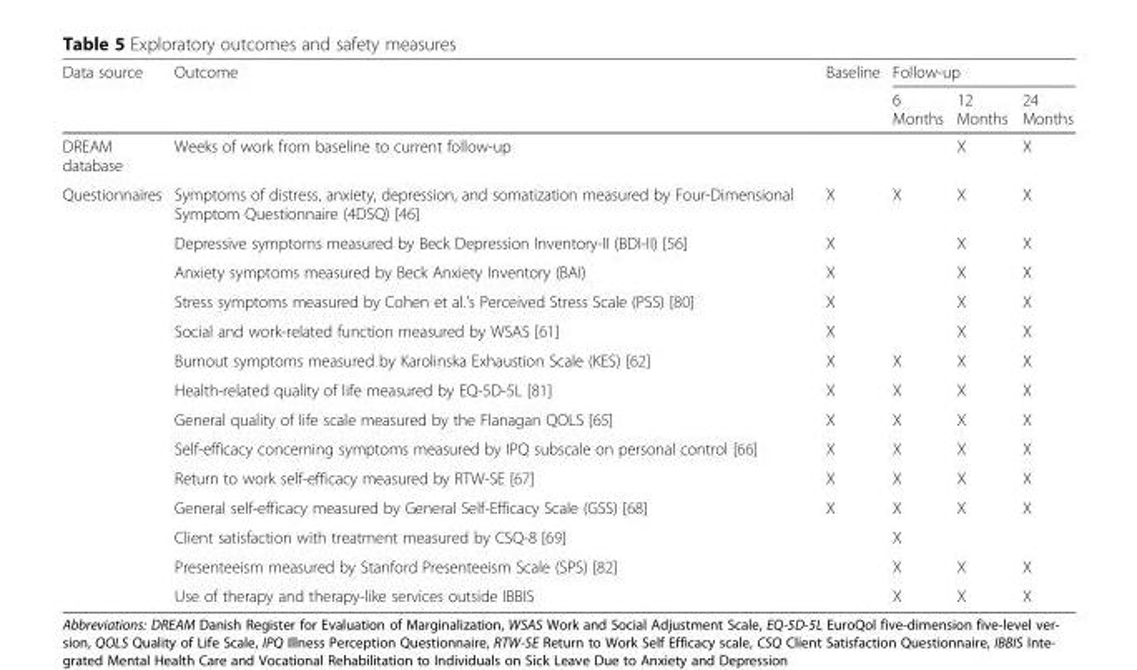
<table><thead><tr><td rowspan="2">Data source</td><td rowspan="2">Outcome</td><td rowspan="2">Baseline</td><td colspan="3">Follow-up</td></tr><tr><td>6 Months</td><td>12 Months</td><td>24 Months</td></tr></thead><tbody><tr><td>DREAM database</td><td>Weeks of work from baseline to current follow-up</td><td></td><td></td><td>X</td><td>X</td></tr><tr><td rowspan="14">Questionnaires</td><td>Symptoms of distress, anxiety, depression, and somatization measured by Four-Dimensional Symptom Questionnaire (4DSQ) [46]</td><td>X</td><td>X</td><td>X</td><td>X</td></tr><tr><td>Depressive symptoms measured by Beck Depression Inventory-II (BDI-II) [56]</td><td>X</td><td></td><td>X</td><td>X</td></tr><tr><td>Anxiety symptoms measured by Beck Anxiety Inventory (BAI)</td><td>X</td><td></td><td>X</td><td>X</td></tr><tr><td>Stress symptoms measured by Cohen et al.’s Perceived Stress Scale (PSS) [80]</td><td>X</td><td></td><td>X</td><td>X</td></tr><tr><td>Social and work-related function measured by WSAS [61]</td><td>X</td><td></td><td>X</td><td>X</td></tr><tr><td>Burnout symptoms measured by Karolinska Exhaustion Scale (KES) [62]</td><td>X</td><td>X</td><td>X</td><td>X</td></tr><tr><td>Health-related quality of life measured by EQ-5D-5L [81]</td><td>X</td><td>X</td><td>X</td><td>X</td></tr><tr><td>General quality of life scale measured by the Flanagan QOLS [65]</td><td>X</td><td>X</td><td>X</td><td>X</td></tr><tr><td>Self-efficacy concerning symptoms measured by IPQ subscale on personal control [66]</td><td>X</td><td>X</td><td>X</td><td>X</td></tr><tr><td>Return to work self-efficacy measured by RTW-SE [67]</td><td>X</td><td>X</td><td>X</td><td>X</td></tr><tr><td>General self-efficacy measured by General Self-Efficacy Scale (GSS) [68]</td><td>X</td><td>X</td><td>X</td><td>X</td></tr><tr><td>Client satisfaction with treatment measured by CSQ-8 [69]</td><td></td><td>X</td><td></td><td></td></tr><tr><td>Presenteeism measured by Stanford Presenteeism Scale (SPS) [82]</td><td></td><td>X</td><td>X</td><td>X</td></tr><tr><td>Use of therapy and therapy-like services outside IBBIS</td><td></td><td>X</td><td>X</td><td>X</td></tr></tbody></table>